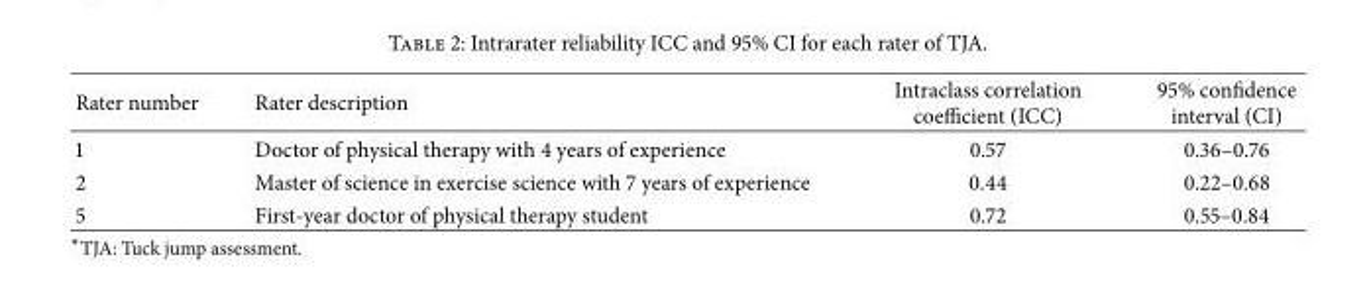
<table><thead><tr><td>Rater number</td><td>Rater description</td><td>Intraclass correlation coefficient (ICC)</td><td>95% confidence interval (CI)</td></tr></thead><tbody><tr><td>1</td><td>Doctor of physical therapy with 4 years of experience</td><td>0.57</td><td>0.36–0.76</td></tr><tr><td>2</td><td>Master of science in exercise science with 7 years of experience</td><td>0.44</td><td>0.22–0.68</td></tr><tr><td>5</td><td>First-year doctor of physical therapy student</td><td>0.72</td><td>0.55–0.84</td></tr></tbody></table>